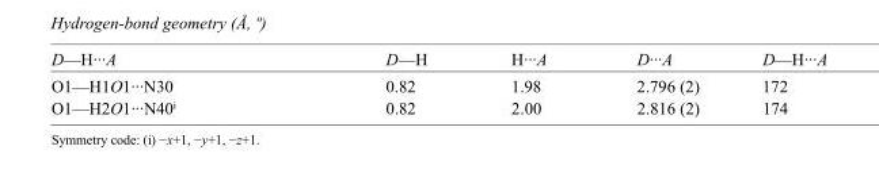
<table><tbody><tr><td>D—H···A</td><td>D—H</td><td>H···A</td><td>D···A</td><td>D—H···A</td></tr><tr><td>O1—H1O1···N30</td><td>0.82</td><td>1.98</td><td>2.796 (2)</td><td>172</td></tr><tr><td>O1—H2O1···N40<sup>i</sup></td><td>0.82</td><td>2.00</td><td>2.816 (2)</td><td>174</td></tr></tbody></table>